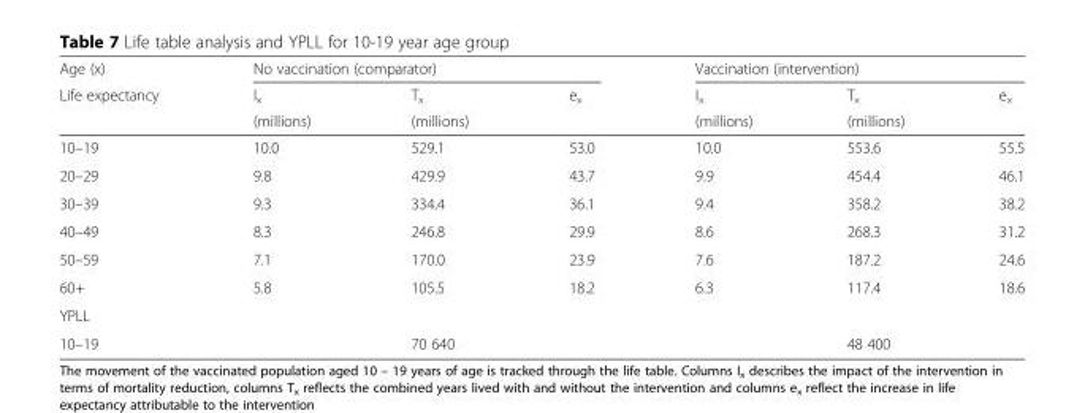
<table><thead><tr><td rowspan="3">Age (x) Life expectancy</td><td colspan="3">No vaccination (comparator)</td><td colspan="3">Vaccination (intervention)</td></tr><tr><td rowspan="2">I<sub>x</sub> (millions)</td><td rowspan="2">T<sub>x</sub> (millions)</td><td rowspan="2">e<sub>x</sub></td><td rowspan="2">I<sub>x</sub> (millions)</td><td rowspan="2">T<sub>x</sub> (millions)</td><td rowspan="2">e<sub>x</sub></td></tr><tr></tr></thead><tbody><tr><td>10–19</td><td>10.0</td><td>529.1</td><td>53.0</td><td>10.0</td><td>553.6</td><td>55.5</td></tr><tr><td>20–29</td><td>9.8</td><td>429.9</td><td>43.7</td><td>9.9</td><td>454.4</td><td>46.1</td></tr><tr><td>30–39</td><td>9.3</td><td>334.4</td><td>36.1</td><td>9.4</td><td>358.2</td><td>38.2</td></tr><tr><td>40–49</td><td>8.3</td><td>246.8</td><td>29.9</td><td>8.6</td><td>268.3</td><td>31.2</td></tr><tr><td>50–59</td><td>7.1</td><td>170.0</td><td>23.9</td><td>7.6</td><td>187.2</td><td>24.6</td></tr><tr><td>60+</td><td>5.8</td><td>105.5</td><td>18.2</td><td>6.3</td><td>117.4</td><td>18.6</td></tr><tr><td colspan="7">YPLL</td></tr><tr><td>10–19</td><td></td><td>70 640</td><td></td><td></td><td>48 400</td><td></td></tr></tbody></table>